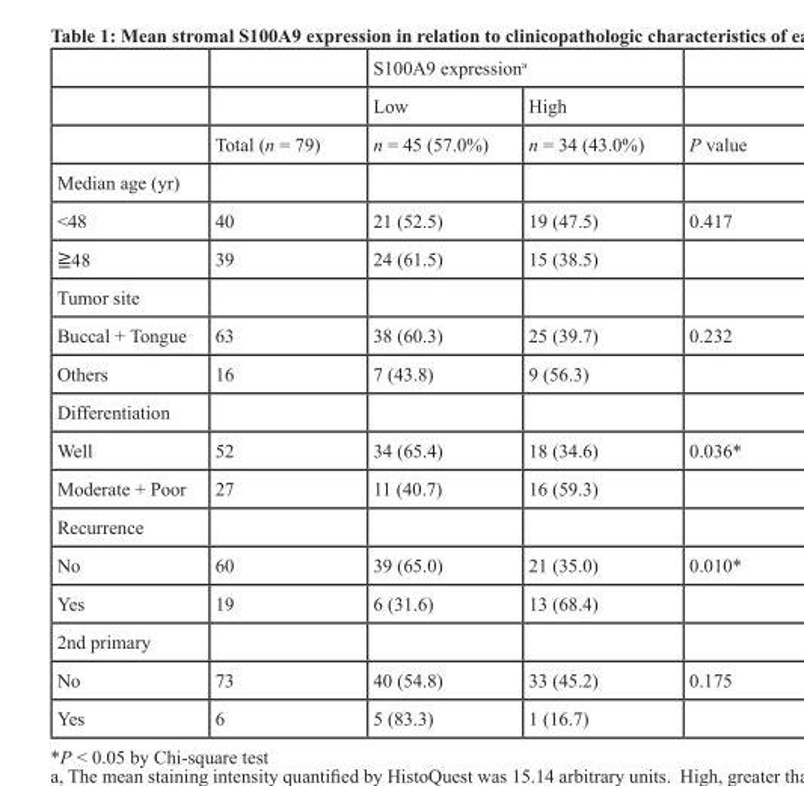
<table><thead><tr><td rowspan="3"></td><td rowspan="3">Total (n = 79)</td><td colspan="2">S100A9 expression<sup>a</sup></td><td rowspan="3">P value</td></tr><tr><td rowspan="2">Low n = 45 (57.0%)</td><td rowspan="2">High n = 34 (43.0%)</td></tr><tr></tr></thead><tbody><tr><td colspan="5">Median age (yr)</td></tr><tr><td>&lt;48</td><td>40</td><td>21 (52.5)</td><td>19 (47.5)</td><td>0.417</td></tr><tr><td>≧48</td><td>39</td><td>24 (61.5)</td><td>15 (38.5)</td><td></td></tr><tr><td colspan="5">Tumor site</td></tr><tr><td>Buccal + Tongue</td><td>63</td><td>38 (60.3)</td><td>25 (39.7)</td><td>0.232</td></tr><tr><td>Others</td><td>16</td><td>7 (43.8)</td><td>9 (56.3)</td><td></td></tr><tr><td colspan="5">Differentiation</td></tr><tr><td>Well</td><td>52</td><td>34 (65.4)</td><td>18 (34.6)</td><td>0.036*</td></tr><tr><td>Moderate + Poor</td><td>27</td><td>11 (40.7)</td><td>16 (59.3)</td><td></td></tr><tr><td colspan="5">Recurrence</td></tr><tr><td>No</td><td>60</td><td>39 (65.0)</td><td>21 (35.0)</td><td>0.010*</td></tr><tr><td>Yes</td><td>19</td><td>6 (31.6)</td><td>13 (68.4)</td><td></td></tr><tr><td colspan="5">2nd primary</td></tr><tr><td>No</td><td>73</td><td>40 (54.8)</td><td>33 (45.2)</td><td>0.175</td></tr><tr><td>Yes</td><td>6</td><td>5 (83.3)</td><td>1 (16.7)</td><td></td></tr></tbody></table>